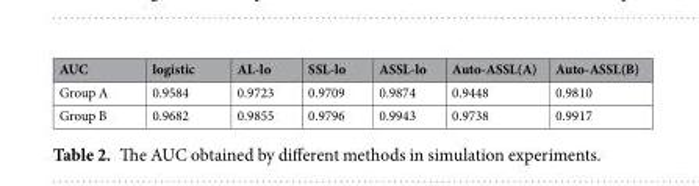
<table><thead><tr><td>AUC</td><td>logistic</td><td>AL-lo</td><td>SSL-lo</td><td>ASSL-lo</td><td>Auto-ASSL(A)</td><td>Auto-ASSL(B)</td></tr></thead><tbody><tr><td>Group A</td><td>0.9584</td><td>0.9723</td><td>0.9709</td><td>0.9874</td><td>0.9448</td><td>0.9810</td></tr><tr><td>Group B</td><td>0.9682</td><td>0.9855</td><td>0.9796</td><td>0.9943</td><td>0.9738</td><td>0.9917</td></tr></tbody></table>